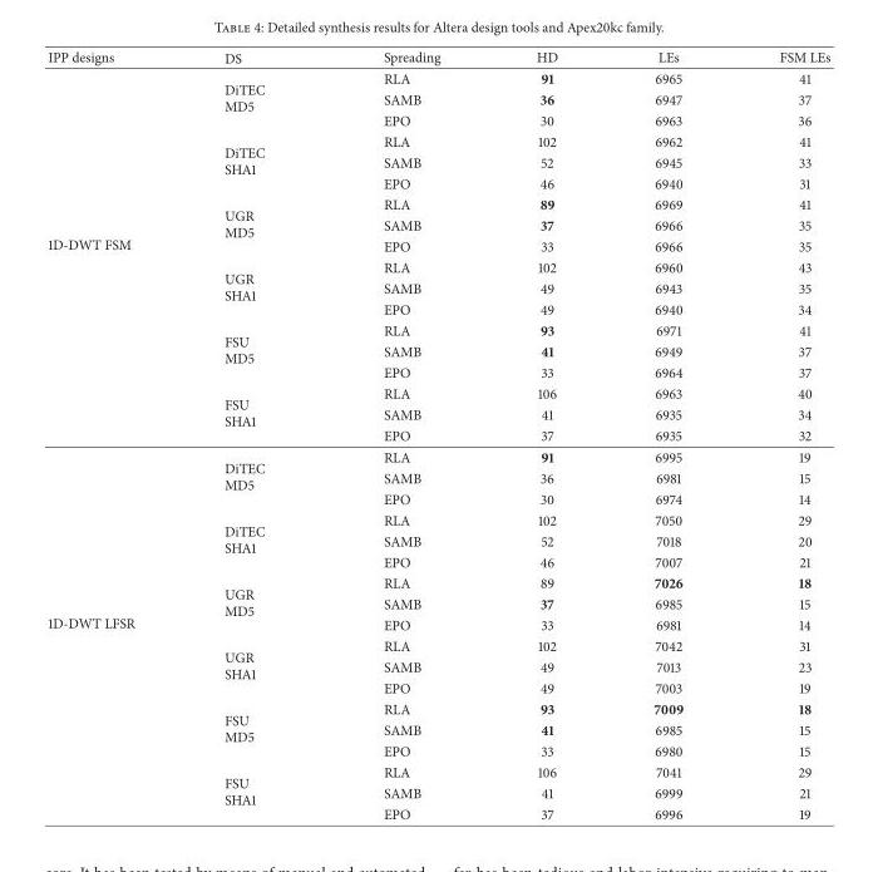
<table><thead><tr><td>IPP designs</td><td>DS</td><td>Spreading</td><td>HD</td><td>LEs</td><td>FSM LEs</td></tr></thead><tbody><tr><td rowspan="18">1D-DWT FSM</td><td rowspan="3">DiTEC MD5</td><td>RLA</td><td>91</td><td>6965</td><td>41</td></tr><tr><td>SAMB</td><td>36</td><td>6947</td><td>37</td></tr><tr><td>EPO</td><td>30</td><td>6963</td><td>36</td></tr><tr><td rowspan="3">DiTEC SHA1</td><td>RLA</td><td>102</td><td>6962</td><td>41</td></tr><tr><td>SAMB</td><td>52</td><td>6945</td><td>33</td></tr><tr><td>EPO</td><td>46</td><td>6940</td><td>31</td></tr><tr><td rowspan="3">UGR MD5</td><td>RLA</td><td>89</td><td>6969</td><td>41</td></tr><tr><td>SAMB</td><td>37</td><td>6966</td><td>35</td></tr><tr><td>EPO</td><td>33</td><td>6966</td><td>35</td></tr><tr><td rowspan="3">UGR SHA1</td><td>RLA</td><td>102</td><td>6960</td><td>43</td></tr><tr><td>SAMB</td><td>49</td><td>6943</td><td>35</td></tr><tr><td>EPO</td><td>49</td><td>6940</td><td>34</td></tr><tr><td rowspan="3">FSU MD5</td><td>RLA</td><td>93</td><td>6971</td><td>41</td></tr><tr><td>SAMB</td><td>41</td><td>6949</td><td>37</td></tr><tr><td>EPO</td><td>33</td><td>6964</td><td>37</td></tr><tr><td rowspan="3">FSU SHA1</td><td>RLA</td><td>106</td><td>6963</td><td>40</td></tr><tr><td>SAMB</td><td>41</td><td>6935</td><td>34</td></tr><tr><td>EPO</td><td>37</td><td>6935</td><td>32</td></tr><tr><td rowspan="18">1D-DWT LFSR</td><td rowspan="3">DiTEC MD5</td><td>RLA</td><td>91</td><td>6995</td><td>19</td></tr><tr><td>SAMB</td><td>36</td><td>6981</td><td>15</td></tr><tr><td>EPO</td><td>30</td><td>6974</td><td>14</td></tr><tr><td rowspan="3">DiTEC SHA1</td><td>RLA</td><td>102</td><td>7050</td><td>29</td></tr><tr><td>SAMB</td><td>52</td><td>7018</td><td>20</td></tr><tr><td>EPO</td><td>46</td><td>7007</td><td>21</td></tr><tr><td rowspan="3">UGR MD5</td><td>RLA</td><td>89</td><td>7026</td><td>18</td></tr><tr><td>SAMB</td><td>37</td><td>6985</td><td>15</td></tr><tr><td>EPO</td><td>33</td><td>6981</td><td>14</td></tr><tr><td rowspan="3">UGR SHA1</td><td>RLA</td><td>102</td><td>7042</td><td>31</td></tr><tr><td>SAMB</td><td>49</td><td>7013</td><td>23</td></tr><tr><td>EPO</td><td>49</td><td>7003</td><td>19</td></tr><tr><td rowspan="3">FSU MD5</td><td>RLA</td><td>93</td><td>7009</td><td>18</td></tr><tr><td>SAMB</td><td>41</td><td>6985</td><td>15</td></tr><tr><td>EPO</td><td>33</td><td>6980</td><td>15</td></tr><tr><td rowspan="3">FSU SHA1</td><td>RLA</td><td>106</td><td>7041</td><td>29</td></tr><tr><td>SAMB</td><td>41</td><td>6999</td><td>21</td></tr><tr><td>EPO</td><td>37</td><td>6996</td><td>19</td></tr></tbody></table>